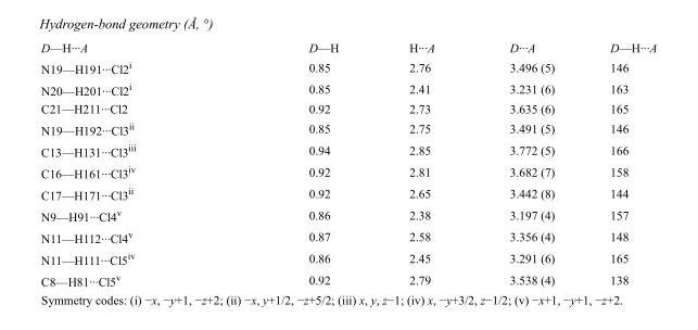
<table><tbody><tr><td>D—H···A</td><td>D—H</td><td>H···A</td><td>D···A</td><td>D—H···A</td></tr><tr><td>N19—H191···Cl2<sup>i</sup></td><td>0.85</td><td>2.76</td><td>3.496 (5)</td><td>146</td></tr><tr><td>N20—H201···Cl2<sup>i</sup></td><td>0.85</td><td>2.41</td><td>3.231 (6)</td><td>163</td></tr><tr><td>C21—H211···Cl2</td><td>0.92</td><td>2.73</td><td>3.635 (6)</td><td>165</td></tr><tr><td>N19—H192···Cl3<sup>ii</sup></td><td>0.85</td><td>2.75</td><td>3.491 (5)</td><td>146</td></tr><tr><td>C13—H131···Cl3<sup>iii</sup></td><td>0.94</td><td>2.85</td><td>3.772 (5)</td><td>166</td></tr><tr><td>C16—H161···Cl3<sup>iv</sup></td><td>0.92</td><td>2.81</td><td>3.682 (7)</td><td>158</td></tr><tr><td>C17—H171···Cl3<sup>ii</sup></td><td>0.92</td><td>2.65</td><td>3.442 (8)</td><td>144</td></tr><tr><td>N9—H91···Cl4<sup>v</sup></td><td>0.86</td><td>2.38</td><td>3.197 (4)</td><td>157</td></tr><tr><td>N11—H112···Cl4<sup>v</sup></td><td>0.87</td><td>2.58</td><td>3.356 (4)</td><td>148</td></tr><tr><td>N11—H111···Cl5<sup>iv</sup></td><td>0.86</td><td>2.45</td><td>3.291 (6)</td><td>165</td></tr><tr><td>C8—H81···Cl5<sup>v</sup></td><td>0.92</td><td>2.79</td><td>3.538 (4)</td><td>138</td></tr></tbody></table>